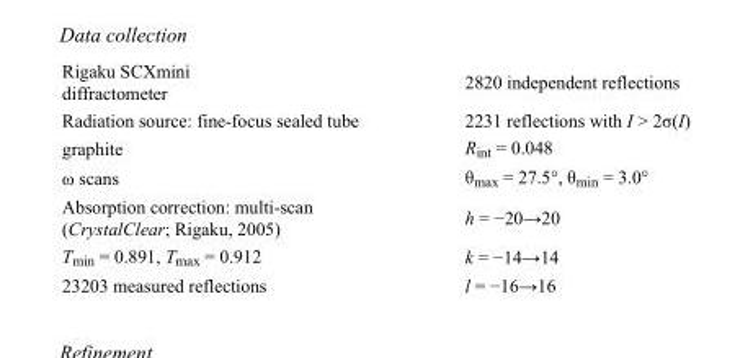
<table><tbody><tr><td>Rigaku SCXmini diffractometer</td><td>2820 independent reflections</td></tr><tr><td>Radiation source: fine-focus sealed tube</td><td>2231 reflections with I &gt; 2σ(I)</td></tr><tr><td>graphite</td><td>R<sub>int</sub> = 0.048</td></tr><tr><td>ω scans</td><td>θ<sub>max</sub> = 27.5°, θ<sub>min</sub> = 3.0°</td></tr><tr><td>Absorption correction: multi-scan (CrystalClear; Rigaku, 2005)</td><td>h = −20→20</td></tr><tr><td>T<sub>min</sub> = 0.891, T<sub>max</sub> = 0.912</td><td>k = −14→14</td></tr><tr><td>23203 measured reflections</td><td>l = −16→16</td></tr></tbody></table>